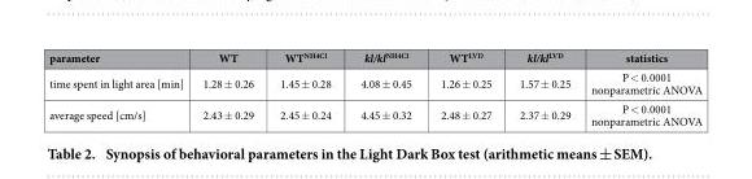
<table><thead><tr><td>parameter</td><td>WT</td><td>WT<sup>NH4Cl</sup></td><td>kl/kl<sup>NH4Cl</sup></td><td>WT<sup>LVD</sup></td><td>kl/kl<sup>LVD</sup></td><td>statistics</td></tr></thead><tbody><tr><td>time spent in light area [min]</td><td>1.28 ± 0.26</td><td>1.45 ± 0.28</td><td>4.08 ± 0.45</td><td>1.26 ± 0.25</td><td>1.57 ± 0.25</td><td>P &lt; 0.0001 nonparametric ANOVA</td></tr><tr><td>average speed [cm/s]</td><td>2.43 ± 0.29</td><td>2.45 ± 0.24</td><td>4.45 ± 0.32</td><td>2.48 ± 0.27</td><td>2.37 ± 0.29</td><td>P &lt; 0.0001 nonparametric ANOVA</td></tr></tbody></table>